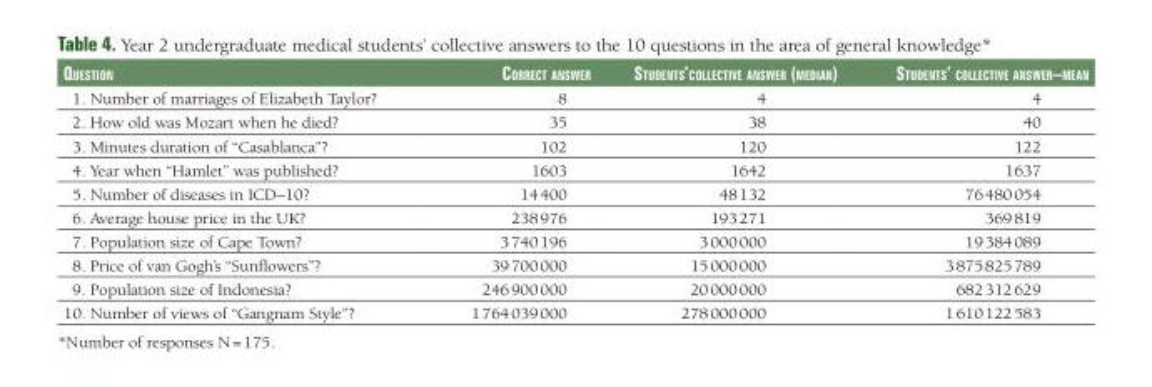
<table><thead><tr><td>Question</td><td>CorreCt answer</td><td>students’ColleCtive answer (median)</td><td>students’ ColleCtive answer–mean</td></tr></thead><tbody><tr><td>1. Number of marriages of Elizabeth Taylor?</td><td>8</td><td>4</td><td>4</td></tr><tr><td>2. How old was Mozart when he died?</td><td>35</td><td>38</td><td>40</td></tr><tr><td>3. Minutes duration of “Casablanca”?</td><td>102</td><td>120</td><td>122</td></tr><tr><td>4. Year when “Hamlet” was published?</td><td>1603</td><td>1642</td><td>1637</td></tr><tr><td>5. Number of diseases in ICD–10?</td><td>14 400</td><td>48 132</td><td>76 480 054</td></tr><tr><td>6. Average house price in the UK?</td><td>238 976</td><td>193 271</td><td>369 819</td></tr><tr><td>7. Population size of Cape Town?</td><td>3 740 196</td><td>3 000 000</td><td>19 384 089</td></tr><tr><td>8. Price of van Gogh’s “Sunflowers”?</td><td>39 700 000</td><td>15 000 000</td><td>3 875 825 789</td></tr><tr><td>9. Population size of Indonesia?</td><td>246 900 000</td><td>20 000 000</td><td>682 312 629</td></tr><tr><td>10. Number of views of “Gangnam Style”?</td><td>1 764 039 000</td><td>278 000 000</td><td>1 610 122 583</td></tr></tbody></table>